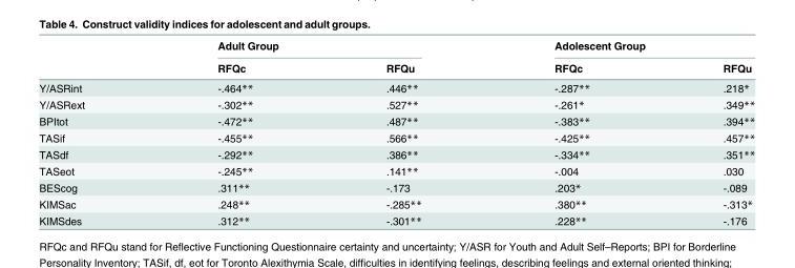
<table><thead><tr><td rowspan="2"></td><td colspan="2">Adult Group</td><td colspan="2">Adolescent Group</td></tr><tr><td>RFQc</td><td>RFQu</td><td>RFQc</td><td>RFQu</td></tr></thead><tbody><tr><td>Y/ASRint</td><td>-.464**</td><td>.446**</td><td>-.287**</td><td>.218*</td></tr><tr><td>Y/ASRext</td><td>-.302**</td><td>.527**</td><td>-.261*</td><td>.349**</td></tr><tr><td>BPItot</td><td>-.472**</td><td>.487**</td><td>-.383**</td><td>.394**</td></tr><tr><td>TASif</td><td>-.455**</td><td>.566**</td><td>-.425**</td><td>.457**</td></tr><tr><td>TASdf</td><td>-.292**</td><td>.386**</td><td>-.334**</td><td>.351**</td></tr><tr><td>TASeot</td><td>-.245**</td><td>.141**</td><td>-.004</td><td>.030</td></tr><tr><td>BEScog</td><td>.311**</td><td>-.173</td><td>.203*</td><td>-.089</td></tr><tr><td>KIMSac</td><td>.248**</td><td>-.285**</td><td>.380**</td><td>-.313*</td></tr><tr><td>KIMSdes</td><td>.312**</td><td>-.301**</td><td>.228**</td><td>-.176</td></tr></tbody></table>